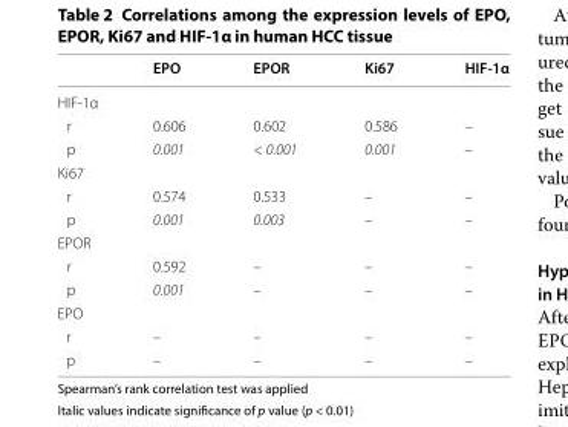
<table><thead><tr><td></td><td>EPO</td><td>EPOR</td><td>Ki67</td><td>HIF‑1α</td></tr></thead><tbody><tr><td colspan="5">HIF‑1α</td></tr><tr><td>r</td><td>0.606</td><td>0.602</td><td>0.586</td><td>–</td></tr><tr><td>p</td><td>0.001</td><td>&lt; 0.001</td><td>0.001</td><td>–</td></tr><tr><td colspan="5">Ki67</td></tr><tr><td>r</td><td>0.574</td><td>0.533</td><td>–</td><td>–</td></tr><tr><td>p</td><td>0.001</td><td>0.003</td><td>–</td><td>–</td></tr><tr><td colspan="5">EPOR</td></tr><tr><td>r</td><td>0.592</td><td>–</td><td>–</td><td>–</td></tr><tr><td>p</td><td>0.001</td><td>–</td><td>–</td><td>–</td></tr><tr><td colspan="5">EPO</td></tr><tr><td>r</td><td>–</td><td>–</td><td>–</td><td>–</td></tr><tr><td>p</td><td>–</td><td>–</td><td>–</td><td>–</td></tr></tbody></table>